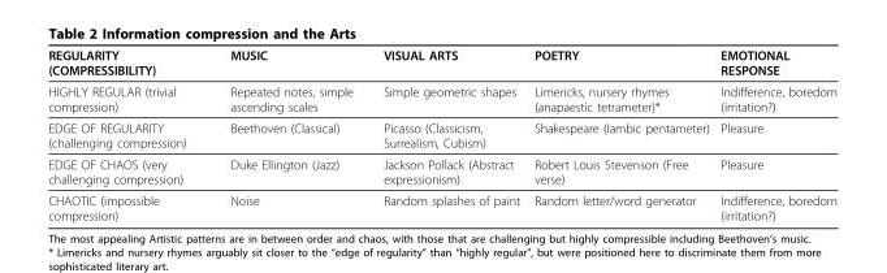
<table><thead><tr><td>REGULARITY (COMPRESSIBILITY)</td><td>MUSIC</td><td>VISUAL ARTS</td><td>POETRY</td><td>EMOTIONAL RESPONSE</td></tr></thead><tbody><tr><td>HIGHLY REGULAR (trivial compression)</td><td>Repeated notes, simple ascending scales</td><td>Simple geometric shapes</td><td>Limericks, nursery rhymes (anapaestic tetrameter)*</td><td>Indifference, boredom (irritation?)</td></tr><tr><td>EDGE OF REGULARITY (challenging compression)</td><td>Beethoven (Classical)</td><td>Picasso (Classicism, Surrealism, Cubism)</td><td>Shakespeare (Iambic pentameter)</td><td>Pleasure</td></tr><tr><td>EDGE OF CHAOS (very challenging compression)</td><td>Duke Ellington (Jazz)</td><td>Jackson Pollack (Abstract expressionism)</td><td>Robert Louis Stevenson (Free verse)</td><td>Pleasure</td></tr><tr><td>CHAOTIC (impossible compression)</td><td>Noise</td><td>Random splashes of paint</td><td>Random letter/word generator</td><td>Indifference, boredom (irritation?)</td></tr></tbody></table>